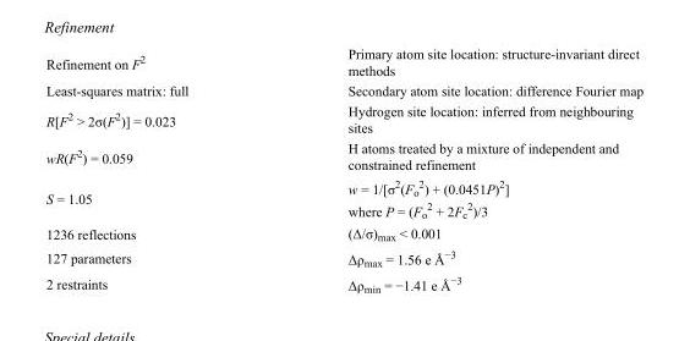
<table><tbody><tr><td>Refinement on F<sup>2</sup></td><td>Primary atom site location: structure-invariant direct methods</td></tr><tr><td>Least-squares matrix: full</td><td>Secondary atom site location: difference Fourier map</td></tr><tr><td>R[F<sup>2</sup> &gt; 2σ(F<sup>2</sup>)] = 0.023</td><td>Hydrogen site location: inferred from neighbouring sites</td></tr><tr><td>wR(F<sup>2</sup>) = 0.059</td><td>H atoms treated by a mixture of independent and constrained refinement</td></tr><tr><td>S = 1.05</td><td>w = 1/[σ<sup>2</sup>(F<sub>o</sub> <sup>2</sup>) + (0.0451P)<sup>2</sup>] where P = (F<sub>o</sub> <sup>2</sup> + 2F<sub>c</sub> <sup>2</sup>)/3</td></tr><tr><td>1236 reflections</td><td>(Δ/σ)<sub>max</sub> &lt; 0.001</td></tr><tr><td>127 parameters</td><td>Δρ<sub>max</sub> = 1.56 e Å<sup>−3</sup></td></tr><tr><td>2 restraints</td><td>Δρ<sub>min</sub> = −1.41 e Å<sup>−3</sup></td></tr></tbody></table>